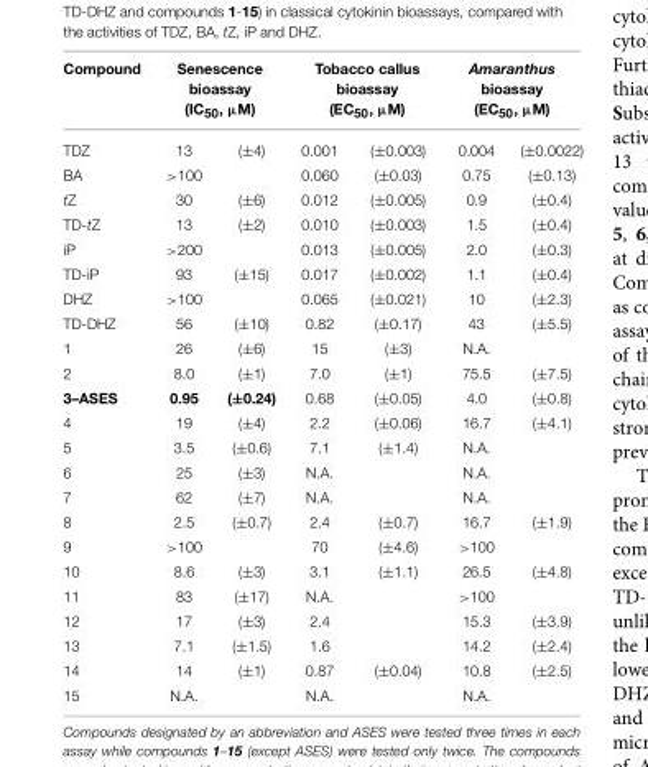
<table><thead><tr><td rowspan="2">Compound TDZ</td><td colspan="2">Senescence bioassay (IC<sub>50</sub>, µM)</td><td colspan="2">Tobacco callus bioassay (EC<sub>50</sub>, µM)</td><td colspan="2">Amaranthus bioassay (EC<sub>50</sub>, µM)</td></tr><tr><td>13</td><td>(±4)</td><td>0.001</td><td>(±0.003)</td><td>0.004</td><td>(±0.0022)</td></tr></thead><tbody><tr><td>BA</td><td>&gt;100</td><td></td><td>0.060</td><td>(±0.03)</td><td>0.75</td><td>(±0.13)</td></tr><tr><td>tZ</td><td>30</td><td>(±6)</td><td>0.012</td><td>(±0.005)</td><td>0.9</td><td>(±0.4)</td></tr><tr><td>TD-tZ</td><td>13</td><td>(±2)</td><td>0.010</td><td>(±0.003)</td><td>1.5</td><td>(±0.4)</td></tr><tr><td>iP</td><td>&gt;200</td><td></td><td>0.013</td><td>(±0.005)</td><td>2.0</td><td>(±0.3)</td></tr><tr><td>TD-iP</td><td>93</td><td>(±15)</td><td>0.017</td><td>(±0.002)</td><td>1.1</td><td>(±0.4)</td></tr><tr><td>DHZ</td><td>&gt;100</td><td></td><td>0.065</td><td>(±0.021)</td><td>10</td><td>(±2.3)</td></tr><tr><td>TD-DHZ</td><td>56</td><td>(±10)</td><td>0.82</td><td>(±0.17)</td><td>43</td><td>(±5.5)</td></tr><tr><td>1</td><td>26</td><td>(±6)</td><td>15</td><td>(±3)</td><td>N.A.</td><td></td></tr><tr><td>2</td><td>8.0</td><td>(±1)</td><td>7.0</td><td>(±1)</td><td>75.5</td><td>(±7.5)</td></tr><tr><td>3–ASES</td><td>0.95</td><td>(±0.24)</td><td>0.68</td><td>(±0.05)</td><td>4.0</td><td>(±0.8)</td></tr><tr><td>4</td><td>19</td><td>(±4)</td><td>2.2</td><td>(±0.06)</td><td>16.7</td><td>(±4.1)</td></tr><tr><td>5</td><td>3.5</td><td>(±0.6)</td><td>7.1</td><td>(±1.4)</td><td>N.A.</td><td></td></tr><tr><td>6</td><td>25</td><td>(±3)</td><td>N.A.</td><td></td><td>N.A.</td><td></td></tr><tr><td>7</td><td>62</td><td>(±7)</td><td>N.A.</td><td></td><td>N.A.</td><td></td></tr><tr><td>8</td><td>2.5</td><td>(±0.7)</td><td>2.4</td><td>(±0.7)</td><td>16.7</td><td>(±1.9)</td></tr><tr><td>9</td><td>&gt;100</td><td></td><td>70</td><td>(±4.6)</td><td>&gt;100</td><td></td></tr><tr><td>10</td><td>8.6</td><td>(±3)</td><td>3.1</td><td>(±1.1)</td><td>26.5</td><td>(±4.8)</td></tr><tr><td>11</td><td>83</td><td>(±17)</td><td>N.A.</td><td></td><td>&gt;100</td><td></td></tr><tr><td>12</td><td>17</td><td>(±3)</td><td>2.4</td><td></td><td>15.3</td><td>(±3.9)</td></tr><tr><td>13</td><td>7.1</td><td>(±1.5)</td><td>1.6</td><td></td><td>14.2</td><td>(±2.4)</td></tr><tr><td>14</td><td>14</td><td>(±1)</td><td>0.87</td><td>(±0.04)</td><td>10.8</td><td>(±2.5)</td></tr><tr><td>15</td><td>N.A.</td><td></td><td>N.A.</td><td></td><td>N.A.</td><td></td></tr></tbody></table>